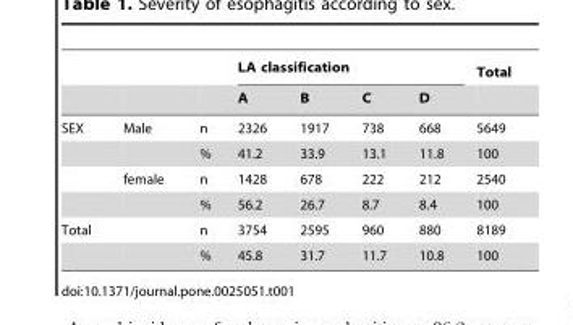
<table><thead><tr><td rowspan="2"></td><td rowspan="2"></td><td rowspan="2"></td><td colspan="4">LA classification</td><td rowspan="2">Total</td></tr><tr><td>A</td><td>B</td><td>C</td><td>D</td></tr></thead><tbody><tr><td rowspan="4">SEX</td><td>Male</td><td>n</td><td>2326</td><td>1917</td><td>738</td><td>668</td><td>5649</td></tr><tr><td></td><td>%</td><td>41.2</td><td>33.9</td><td>13.1</td><td>11.8</td><td>100</td></tr><tr><td>female</td><td>n</td><td>1428</td><td>678</td><td>222</td><td>212</td><td>2540</td></tr><tr><td></td><td>%</td><td>56.2</td><td>26.7</td><td>8.7</td><td>8.4</td><td>100</td></tr><tr><td rowspan="2">Total</td><td></td><td>n</td><td>3754</td><td>2595</td><td>960</td><td>880</td><td>8189</td></tr><tr><td></td><td>%</td><td>45.8</td><td>31.7</td><td>11.7</td><td>10.8</td><td>100</td></tr></tbody></table>